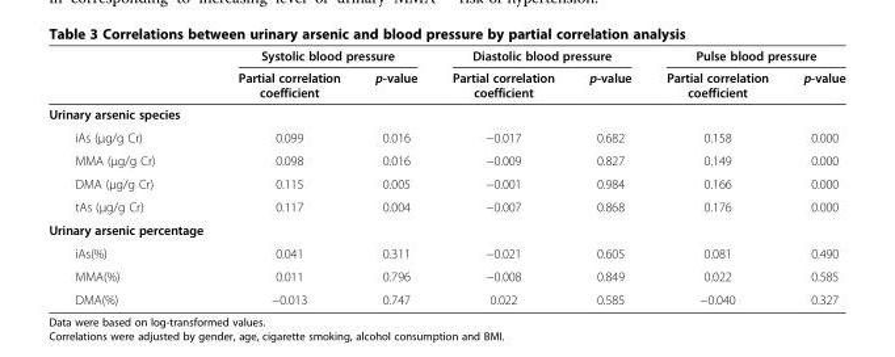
<table><thead><tr><td rowspan="2"></td><td colspan="2">Systolic blood pressure</td><td colspan="2">Diastolic blood pressure</td><td colspan="2">Pulse blood pressure</td></tr><tr><td>Partial correlation coefficient</td><td>p-value</td><td>Partial correlation coefficient</td><td>p-value</td><td>Partial correlation coefficient</td><td>p-value</td></tr></thead><tbody><tr><td colspan="7">Urinary arsenic species</td></tr><tr><td>iAs (μg/g Cr)</td><td>0.099</td><td>0.016</td><td>−0.017</td><td>0.682</td><td>0.158</td><td>0.000</td></tr><tr><td>MMA (μg/g Cr)</td><td>0.098</td><td>0.016</td><td>−0.009</td><td>0.827</td><td>0.149</td><td>0.000</td></tr><tr><td>DMA (μg/g Cr)</td><td>0.115</td><td>0.005</td><td>−0.001</td><td>0.984</td><td>0.166</td><td>0.000</td></tr><tr><td>tAs (μg/g Cr)</td><td>0.117</td><td>0.004</td><td>−0.007</td><td>0.868</td><td>0.176</td><td>0.000</td></tr><tr><td colspan="7">Urinary arsenic percentage</td></tr><tr><td>iAs(%)</td><td>0.041</td><td>0.311</td><td>−0.021</td><td>0.605</td><td>0.081</td><td>0.490</td></tr><tr><td>MMA(%)</td><td>0.011</td><td>0.796</td><td>−0.008</td><td>0.849</td><td>0.022</td><td>0.585</td></tr><tr><td>DMA(%)</td><td>−0.013</td><td>0.747</td><td>0.022</td><td>0.585</td><td>−0.040</td><td>0.327</td></tr></tbody></table>